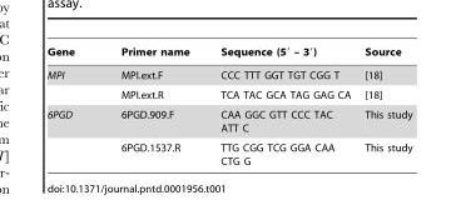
<table><thead><tr><td>Gene</td><td>Primer name</td><td>Sequence (5′ – 3′)</td><td>Source</td></tr></thead><tbody><tr><td rowspan="2">MPI</td><td>MPI.ext.F</td><td>CCC TTT GGT TGT CGG T</td><td>[18]</td></tr><tr><td>MPI.ext.R</td><td>TCA TAC GCA TAG GAG CA</td><td>[18]</td></tr><tr><td rowspan="2">6PGD</td><td>6PGD.909.F</td><td>CAA GGC GTT CCC TAC ATT C</td><td>This study</td></tr><tr><td>6PGD.1537.R</td><td>TTG CGG TCG GGA CAA CTG G</td><td>This study</td></tr></tbody></table>